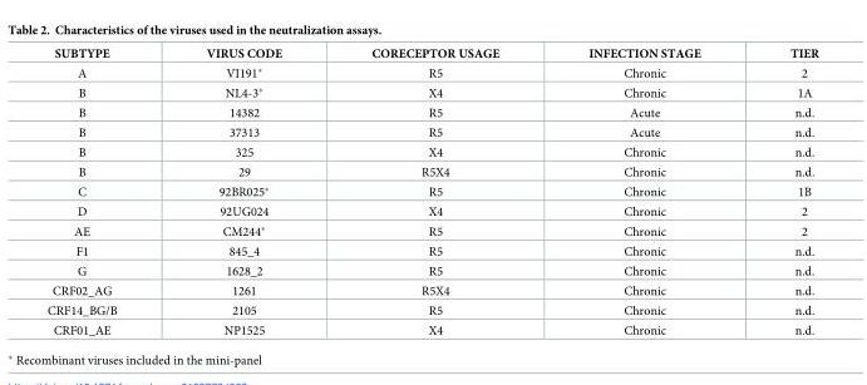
<table><thead><tr><td>SUBTYPE</td><td>VIRUS CODE</td><td>CORECEPTOR USAGE</td><td>INFECTION STAGE</td><td>TIER</td></tr></thead><tbody><tr><td>A</td><td>VI191*</td><td>R5</td><td>Chronic</td><td>2</td></tr><tr><td>B</td><td>NL4-3*</td><td>X4</td><td>Chronic</td><td>1A</td></tr><tr><td>B</td><td>14382</td><td>R5</td><td>Acute</td><td>n.d.</td></tr><tr><td>B</td><td>37313</td><td>R5</td><td>Acute</td><td>n.d.</td></tr><tr><td>B</td><td>325</td><td>X4</td><td>Chronic</td><td>n.d.</td></tr><tr><td>B</td><td>29</td><td>R5X4</td><td>Chronic</td><td>n.d.</td></tr><tr><td>C</td><td>92BR025*</td><td>R5</td><td>Chronic</td><td>1B</td></tr><tr><td>D</td><td>92UG024</td><td>X4</td><td>Chronic</td><td>2</td></tr><tr><td>AE</td><td>CM244*</td><td>R5</td><td>Chronic</td><td>2</td></tr><tr><td>F1</td><td>845_4</td><td>R5</td><td>Chronic</td><td>n.d.</td></tr><tr><td>G</td><td>1628_2</td><td>R5</td><td>Chronic</td><td>n.d.</td></tr><tr><td>CRF02_AG</td><td>1261</td><td>R5X4</td><td>Chronic</td><td>n.d.</td></tr><tr><td>CRF14_BG/B</td><td>2105</td><td>R5</td><td>Chronic</td><td>n.d.</td></tr><tr><td>CRF01_AE</td><td>NP1525</td><td>X4</td><td>Chronic</td><td>n.d.</td></tr></tbody></table>